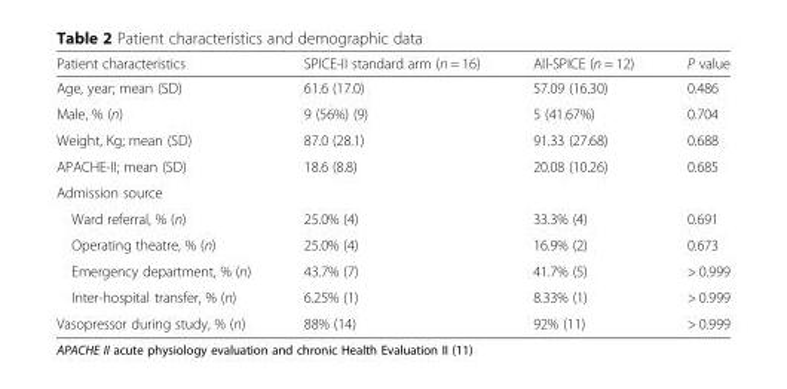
<table><thead><tr><td>Patient characteristics</td><td>SPICE-II standard arm (n = 16)</td><td>All-SPICE (n = 12)</td><td>P value</td></tr></thead><tbody><tr><td>Age, year; mean (SD)</td><td>61.6 (17.0)</td><td>57.09 (16.30)</td><td>0.486</td></tr><tr><td>Male, % (n)</td><td>9 (56%) (9)</td><td>5 (41.67%)</td><td>0.704</td></tr><tr><td>Weight, Kg; mean (SD)</td><td>87.0 (28.1)</td><td>91.33 (27.68)</td><td>0.688</td></tr><tr><td>APACHE-II; mean (SD)</td><td>18.6 (8.8)</td><td>20.08 (10.26)</td><td>0.685</td></tr><tr><td colspan="4">Admission source</td></tr><tr><td>Ward referral, % (n)</td><td>25.0% (4)</td><td>33.3% (4)</td><td>0.691</td></tr><tr><td>Operating theatre, % (n)</td><td>25.0% (4)</td><td>16.9% (2)</td><td>0.673</td></tr><tr><td>Emergency department, % (n)</td><td>43.7% (7)</td><td>41.7% (5)</td><td>&gt; 0.999</td></tr><tr><td>Inter-hospital transfer, % (n)</td><td>6.25% (1)</td><td>8.33% (1)</td><td>&gt; 0.999</td></tr><tr><td>Vasopressor during study, % (n)</td><td>88% (14)</td><td>92% (11)</td><td>&gt; 0.999</td></tr></tbody></table>